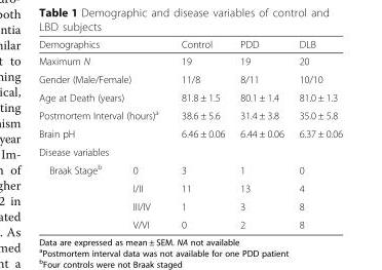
<table><thead><tr><td colspan="2">Demographics</td><td>Control</td><td>PDD</td><td>DLB</td></tr></thead><tbody><tr><td colspan="2">Maximum N</td><td>19</td><td>19</td><td>20</td></tr><tr><td colspan="2">Gender (Male/Female)</td><td>11/8</td><td>8/11</td><td>10/10</td></tr><tr><td colspan="2">Age at Death (years)</td><td>81.8 ± 1.5</td><td>80.1 ± 1.4</td><td>81.0 ± 1.3</td></tr><tr><td colspan="2">Postmortem Interval (hours)<sup>a</sup></td><td>38.6 ± 5.6</td><td>31.4 ± 3.8</td><td>35.0 ± 5.8</td></tr><tr><td colspan="2">Brain pH</td><td>6.46 ± 0.06</td><td>6.44 ± 0.06</td><td>6.37 ± 0.06</td></tr><tr><td colspan="5">Disease variables</td></tr><tr><td rowspan="4">Braak Stage<sup>b</sup></td><td>0</td><td>3</td><td>1</td><td>0</td></tr><tr><td>I/II</td><td>11</td><td>13</td><td>4</td></tr><tr><td>III/IV</td><td>1</td><td>3</td><td>8</td></tr><tr><td>V/VI</td><td>0</td><td>2</td><td>8</td></tr></tbody></table>